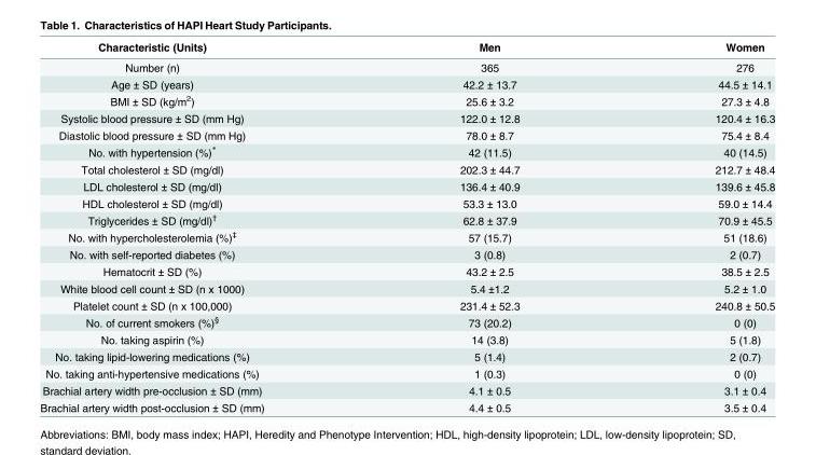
<table><thead><tr><td>Characteristic (Units)</td><td>Men</td><td>Women</td></tr></thead><tbody><tr><td>Number (n)</td><td>365</td><td>276</td></tr><tr><td>Age ± SD (years)</td><td>42.2 ± 13.7</td><td>44.5 ± 14.1</td></tr><tr><td>BMI ± SD (kg/m<sup>2</sup>)</td><td>25.6 ± 3.2</td><td>27.3 ± 4.8</td></tr><tr><td>Systolic blood pressure ± SD (mm Hg)</td><td>122.0 ± 12.8</td><td>120.4 ± 16.3</td></tr><tr><td>Diastolic blood pressure ± SD (mm Hg)</td><td>78.0 ± 8.7</td><td>75.4 ± 8.4</td></tr><tr><td>No. with hypertension (%)*</td><td>42 (11.5)</td><td>40 (14.5)</td></tr><tr><td>Total cholesterol ± SD (mg/dl)</td><td>202.3 ± 44.7</td><td>212.7 ± 48.4</td></tr><tr><td>LDL cholesterol ± SD (mg/dl)</td><td>136.4 ± 40.9</td><td>139.6 ± 45.8</td></tr><tr><td>HDL cholesterol ± SD (mg/dl)</td><td>53.3 ± 13.0</td><td>59.0 ± 14.4</td></tr><tr><td>Triglycerides ± SD (mg/dl)<sup>†</sup></td><td>62.8 ± 37.9</td><td>70.9 ± 45.5</td></tr><tr><td>No. with hypercholesterolemia (%)<sup>‡</sup></td><td>57 (15.7)</td><td>51 (18.6)</td></tr><tr><td>No. with self-reported diabetes (%)</td><td>3 (0.8)</td><td>2 (0.7)</td></tr><tr><td>Hematocrit ± SD (%)</td><td>43.2 ± 2.5</td><td>38.5 ± 2.5</td></tr><tr><td>White blood cell count ± SD (n x 1000)</td><td>5.4 ±1.2</td><td>5.2 ± 1.0</td></tr><tr><td>Platelet count ± SD (n x 100,000)</td><td>231.4 ± 52.3</td><td>240.8 ± 50.5</td></tr><tr><td>No. of current smokers (%)<sup>§</sup></td><td>73 (20.2)</td><td>0 (0)</td></tr><tr><td>No. taking aspirin (%)</td><td>14 (3.8)</td><td>5 (1.8)</td></tr><tr><td>No. taking lipid-lowering medications (%)</td><td>5 (1.4)</td><td>2 (0.7)</td></tr><tr><td>No. taking anti-hypertensive medications (%)</td><td>1 (0.3)</td><td>0 (0)</td></tr><tr><td>Brachial artery width pre-occlusion ± SD (mm)</td><td>4.1 ± 0.5</td><td>3.1 ± 0.4</td></tr><tr><td>Brachial artery width post-occlusion ± SD (mm)</td><td>4.4 ± 0.5</td><td>3.5 ± 0.4</td></tr></tbody></table>